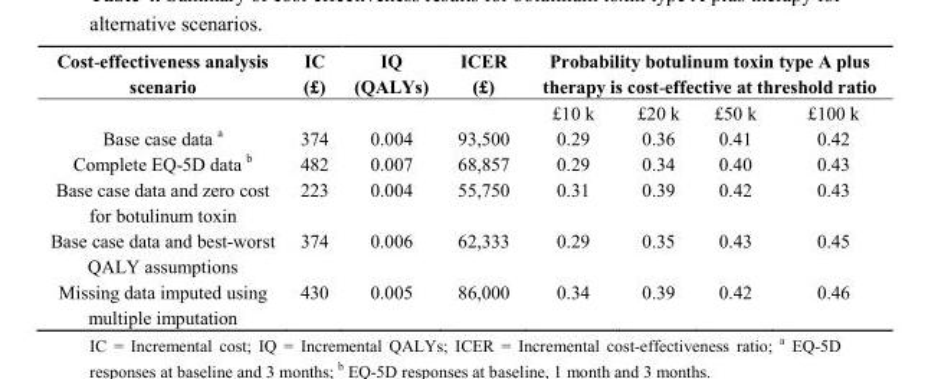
<table><thead><tr><td rowspan="2">Cost-effectiveness analysis scenario</td><td rowspan="2">IC (£)</td><td rowspan="2">IQ (QALYs)</td><td rowspan="2">ICER (£)</td><td colspan="4">Probability botulinum toxin type A plus therapy is cost-effective at threshold ratio</td></tr><tr><td>£10 k</td><td>£20 k</td><td>£50 k</td><td>£100 k</td></tr></thead><tbody><tr><td>Base case data <sup>a</sup></td><td>374</td><td>0.004</td><td>93,500</td><td>0.29</td><td>0.36</td><td>0.41</td><td>0.42</td></tr><tr><td>Complete EQ-5D data <sup>b</sup></td><td>482</td><td>0.007</td><td>68,857</td><td>0.29</td><td>0.34</td><td>0.40</td><td>0.43</td></tr><tr><td>Base case data and zero cost for botulinum toxin</td><td>223</td><td>0.004</td><td>55,750</td><td>0.31</td><td>0.39</td><td>0.42</td><td>0.43</td></tr><tr><td>Base case data and best-worst QALY assumptions</td><td>374</td><td>0.006</td><td>62,333</td><td>0.29</td><td>0.35</td><td>0.43</td><td>0.45</td></tr><tr><td>Missing data imputed using multiple imputation</td><td>430</td><td>0.005</td><td>86,000</td><td>0.34</td><td>0.39</td><td>0.42</td><td>0.46</td></tr></tbody></table>